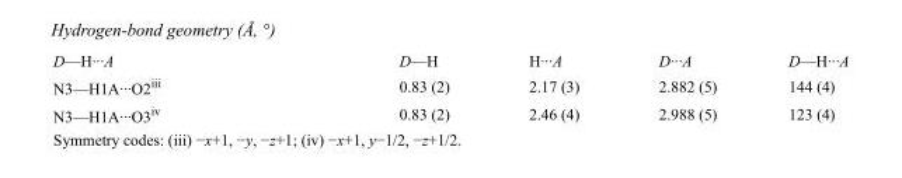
<table><tbody><tr><td>D—H···A</td><td>D—H</td><td>H···A</td><td>D···A</td><td>D—H···A</td></tr><tr><td>N3—H1A···O2<sup>iii</sup></td><td>0.83 (2)</td><td>2.17 (3)</td><td>2.882 (5)</td><td>144 (4)</td></tr><tr><td>N3—H1A···O3<sup>iv</sup></td><td>0.83 (2)</td><td>2.46 (4)</td><td>2.988 (5)</td><td>123 (4)</td></tr></tbody></table>